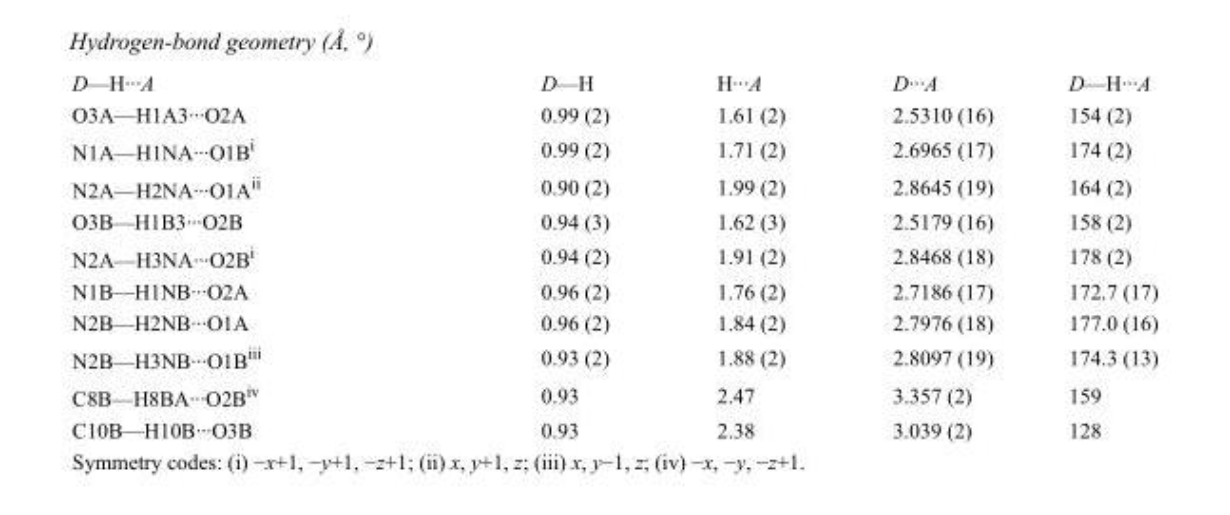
<table><tbody><tr><td>D—H···A</td><td>D—H</td><td>H···A</td><td>D···A</td><td>D—H···A</td></tr><tr><td>O3A—H1A3···O2A</td><td>0.99 (2)</td><td>1.61 (2)</td><td>2.5310 (16)</td><td>154 (2)</td></tr><tr><td>N1A—H1NA···O1B<sup>i</sup></td><td>0.99 (2)</td><td>1.71 (2)</td><td>2.6965 (17)</td><td>174 (2)</td></tr><tr><td>N2A—H2NA···O1A<sup>ii</sup></td><td>0.90 (2)</td><td>1.99 (2)</td><td>2.8645 (19)</td><td>164 (2)</td></tr><tr><td>O3B—H1B3···O2B</td><td>0.94 (3)</td><td>1.62 (3)</td><td>2.5179 (16)</td><td>158 (2)</td></tr><tr><td>N2A—H3NA···O2B<sup>i</sup></td><td>0.94 (2)</td><td>1.91 (2)</td><td>2.8468 (18)</td><td>178 (2)</td></tr><tr><td>N1B—H1NB···O2A</td><td>0.96 (2)</td><td>1.76 (2)</td><td>2.7186 (17)</td><td>172.7 (17)</td></tr><tr><td>N2B—H2NB···O1A</td><td>0.96 (2)</td><td>1.84 (2)</td><td>2.7976 (18)</td><td>177.0 (16)</td></tr><tr><td>N2B—H3NB···O1B<sup>iii</sup></td><td>0.93 (2)</td><td>1.88 (2)</td><td>2.8097 (19)</td><td>174.3 (13)</td></tr><tr><td>C8B—H8BA···O2B<sup>iv</sup></td><td>0.93</td><td>2.47</td><td>3.357 (2)</td><td>159</td></tr><tr><td>C10B—H10B···O3B</td><td>0.93</td><td>2.38</td><td>3.039 (2)</td><td>128</td></tr></tbody></table>